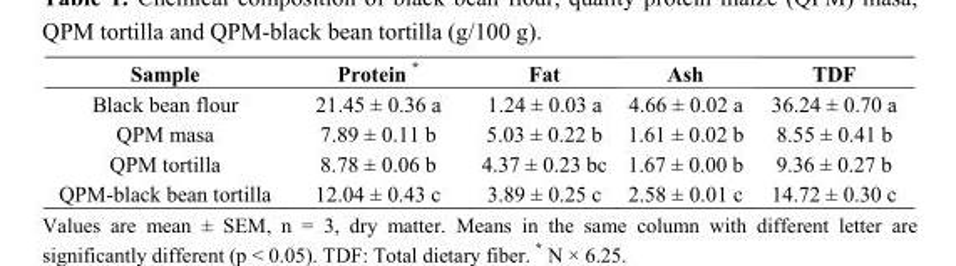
<table><thead><tr><td>Sample</td><td>Protein *</td><td>Fat</td><td>Ash</td><td>TDF</td></tr></thead><tbody><tr><td>Black bean flour</td><td>21.45 ± 0.36 a</td><td>1.24 ± 0.03 a</td><td>4.66 ± 0.02 a</td><td>36.24 ± 0.70 a</td></tr><tr><td>QPM masa</td><td>7.89 ± 0.11 b</td><td>5.03 ± 0.22 b</td><td>1.61 ± 0.02 b</td><td>8.55 ± 0.41 b</td></tr><tr><td>QPM tortilla</td><td>8.78 ± 0.06 b</td><td>4.37 ± 0.23 bc</td><td>1.67 ± 0.00 b</td><td>9.36 ± 0.27 b</td></tr><tr><td>QPM-black bean tortilla</td><td>12.04 ± 0.43 c</td><td>3.89 ± 0.25 c</td><td>2.58 ± 0.01 c</td><td>14.72 ± 0.30 c</td></tr></tbody></table>